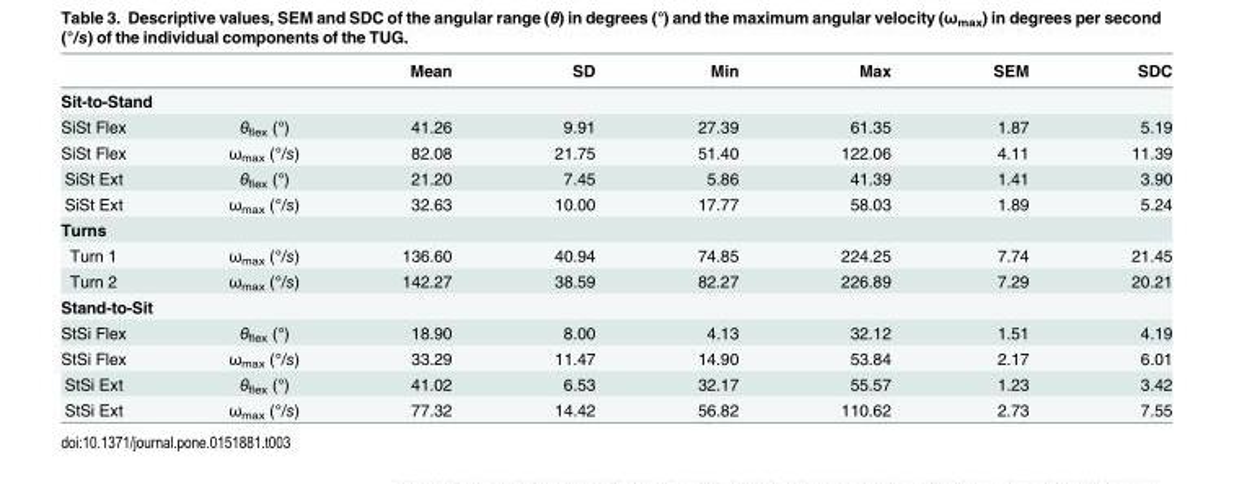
<table><thead><tr><td></td><td></td><td>Mean</td><td>SD</td><td>Min</td><td>Max</td><td>SEM</td><td>SDC</td></tr></thead><tbody><tr><td colspan="8">Sit-to-Stand</td></tr><tr><td>SiSt Flex</td><td>θ<sub>flex</sub> (°)</td><td>41.26</td><td>9.91</td><td>27.39</td><td>61.35</td><td>1.87</td><td>5.19</td></tr><tr><td>SiSt Flex</td><td>ω<sub>max</sub> (°/s)</td><td>82.08</td><td>21.75</td><td>51.40</td><td>122.06</td><td>4.11</td><td>11.39</td></tr><tr><td>SiSt Ext</td><td>θ<sub>flex</sub> (°)</td><td>21.20</td><td>7.45</td><td>5.86</td><td>41.39</td><td>1.41</td><td>3.90</td></tr><tr><td>SiSt Ext</td><td>ω<sub>max</sub> (°/s)</td><td>32.63</td><td>10.00</td><td>17.77</td><td>58.03</td><td>1.89</td><td>5.24</td></tr><tr><td colspan="8">Turns</td></tr><tr><td>Turn 1</td><td>ω<sub>max</sub> (°/s)</td><td>136.60</td><td>40.94</td><td>74.85</td><td>224.25</td><td>7.74</td><td>21.45</td></tr><tr><td>Turn 2</td><td>ω<sub>max</sub> (°/s)</td><td>142.27</td><td>38.59</td><td>82.27</td><td>226.89</td><td>7.29</td><td>20.21</td></tr><tr><td colspan="8">Stand-to-Sit</td></tr><tr><td>StSi Flex</td><td>θ<sub>flex</sub> (°)</td><td>18.90</td><td>8.00</td><td>4.13</td><td>32.12</td><td>1.51</td><td>4.19</td></tr><tr><td>StSi Flex</td><td>ω<sub>max</sub> (°/s)</td><td>33.29</td><td>11.47</td><td>14.90</td><td>53.84</td><td>2.17</td><td>6.01</td></tr><tr><td>StSi Ext</td><td>θ<sub>flex</sub> (°)</td><td>41.02</td><td>6.53</td><td>32.17</td><td>55.57</td><td>1.23</td><td>3.42</td></tr><tr><td>StSi Ext</td><td>ω<sub>max</sub> (°/s)</td><td>77.32</td><td>14.42</td><td>56.82</td><td>110.62</td><td>2.73</td><td>7.55</td></tr></tbody></table>